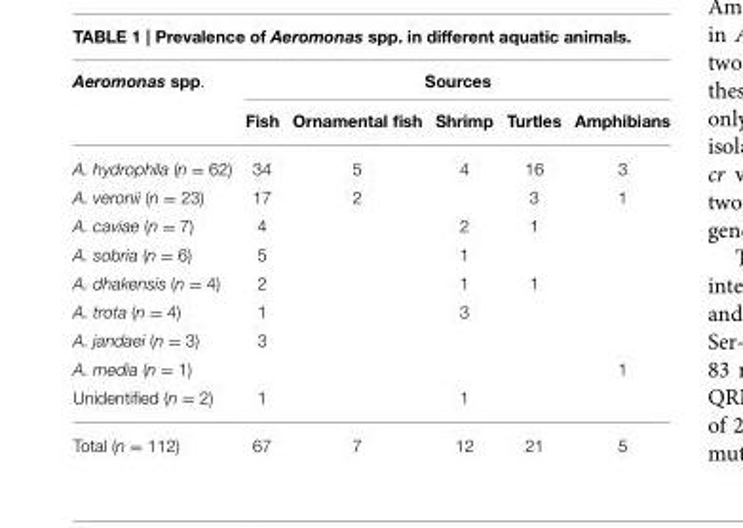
<table><thead><tr><td rowspan="2">Aeromonas spp.</td><td colspan="5">Sources</td></tr><tr><td>Fish</td><td>Ornamental fish</td><td>Shrimp</td><td>Turtles</td><td>Amphibians</td></tr></thead><tbody><tr><td>A. hydrophila (n = 62)</td><td>34</td><td>5</td><td>4</td><td>16</td><td>3</td></tr><tr><td>A. veronii (n = 23)</td><td>17</td><td>2</td><td></td><td>3</td><td>1</td></tr><tr><td>A. caviae (n = 7)</td><td>4</td><td></td><td>2</td><td>1</td><td></td></tr><tr><td>A. sobria (n = 6)</td><td>5</td><td></td><td>1</td><td></td><td></td></tr><tr><td>A. dhakensis (n = 4)</td><td>2</td><td></td><td>1</td><td>1</td><td></td></tr><tr><td>A. trota (n = 4)</td><td>1</td><td></td><td>3</td><td></td><td></td></tr><tr><td>A. jandaei (n = 3)</td><td>3</td><td></td><td></td><td></td><td></td></tr><tr><td>A. media (n = 1)</td><td></td><td></td><td></td><td></td><td>1</td></tr><tr><td>Unidentified (n = 2)</td><td>1</td><td></td><td>1</td><td></td><td></td></tr><tr><td>Total (n = 112)</td><td>67</td><td>7</td><td>12</td><td>21</td><td>5</td></tr></tbody></table>